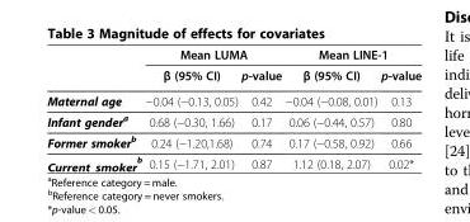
<table><thead><tr><td rowspan="2"></td><td colspan="2">Mean LUMA</td><td colspan="2">Mean LINE-1</td></tr><tr><td>β (95% CI)</td><td>p-value</td><td>β (95% CI)</td><td>p-value</td></tr></thead><tbody><tr><td>Maternal age</td><td>−0.04 (−0.13, 0.05)</td><td>0.42</td><td>−0.04 (−0.08, 0.01)</td><td>0.13</td></tr><tr><td>Infant gender<sup>a</sup></td><td>0.68 (−0.30, 1.66)</td><td>0.17</td><td>0.06 (−0.44, 0.57)</td><td>0.80</td></tr><tr><td>Former smoker<sup>b</sup></td><td>0.24 (−1.20,1.68)</td><td>0.74</td><td>0.17 (−0.58, 0.92)</td><td>0.66</td></tr><tr><td><sub>Current smoker</sub> <sup>b</sup></td><td>0.15 (−1.71, 2.01)</td><td>0.87</td><td>1.12 (0.18, 2.07)</td><td>0.02*</td></tr></tbody></table>